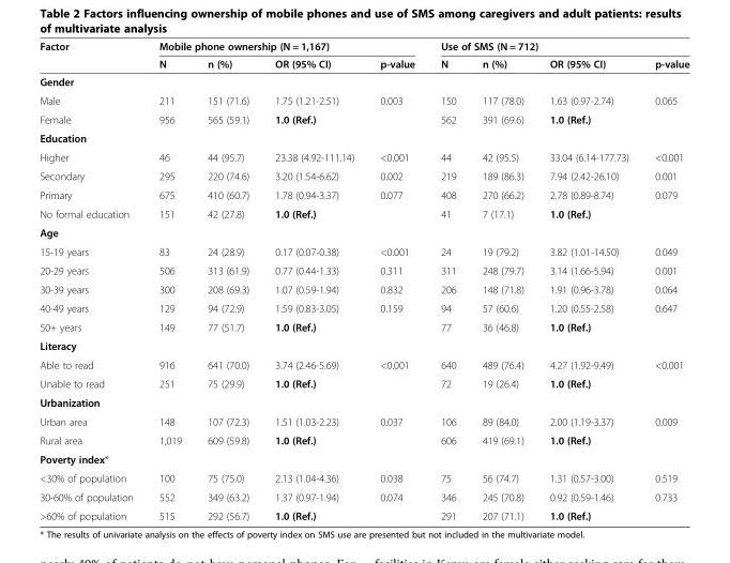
<table><thead><tr><td rowspan="2">Factor</td><td colspan="4">Mobile phone ownership (N = 1,167)</td><td colspan="4">Use of SMS (N = 712)</td></tr><tr><td>N</td><td>n (%)</td><td>OR (95% CI)</td><td>p-value</td><td>N</td><td>n (%)</td><td>OR (95% CI)</td><td>p-value</td></tr></thead><tbody><tr><td colspan="9">Gender</td></tr><tr><td>Male</td><td>211</td><td>151 (71.6)</td><td>1.75 (1.21-2.51)</td><td>0.003</td><td>150</td><td>117 (78.0)</td><td>1.63 (0.97-2.74)</td><td>0.065</td></tr><tr><td>Female</td><td>956</td><td>565 (59.1)</td><td>1.0 (Ref.)</td><td></td><td>562</td><td>391 (69.6)</td><td>1.0 (Ref.)</td><td></td></tr><tr><td colspan="9">Education</td></tr><tr><td>Higher</td><td>46</td><td>44 (95.7)</td><td>23.38 (4.92-111.14)</td><td>&lt;0.001</td><td>44</td><td>42 (95.5)</td><td>33.04 (6.14-177.73)</td><td>&lt;0.001</td></tr><tr><td>Secondary</td><td>295</td><td>220 (74.6)</td><td>3.20 (1.54-6.62)</td><td>0.002</td><td>219</td><td>189 (86.3)</td><td>7.94 (2.42-26.10)</td><td>0.001</td></tr><tr><td>Primary</td><td>675</td><td>410 (60.7)</td><td>1.78 (0.94-3.37)</td><td>0.077</td><td>408</td><td>270 (66.2)</td><td>2.78 (0.89-8.74)</td><td>0.079</td></tr><tr><td>No formal education</td><td>151</td><td>42 (27.8)</td><td>1.0 (Ref.)</td><td></td><td>41</td><td>7 (17.1)</td><td>1.0 (Ref.)</td><td></td></tr><tr><td colspan="9">Age</td></tr><tr><td>15-19 years</td><td>83</td><td>24 (28.9)</td><td>0.17 (0.07-0.38)</td><td>&lt;0.001</td><td>24</td><td>19 (79.2)</td><td>3.82 (1.01-14.50)</td><td>0.049</td></tr><tr><td>20-29 years</td><td>506</td><td>313 (61.9)</td><td>0.77 (0.44-1.33)</td><td>0.311</td><td>311</td><td>248 (79.7)</td><td>3.14 (1.66-5.94)</td><td>0.001</td></tr><tr><td>30-39 years</td><td>300</td><td>208 (69.3)</td><td>1.07 (0.59-1.94)</td><td>0.832</td><td>206</td><td>148 (71.8)</td><td>1.91 (0.96-3.78)</td><td>0.064</td></tr><tr><td>40-49 years</td><td>129</td><td>94 (72.9)</td><td>1.59 (0.83-3.05)</td><td>0.159</td><td>94</td><td>57 (60.6)</td><td>1.20 (0.55-2.58)</td><td>0.647</td></tr><tr><td>50+ years</td><td>149</td><td>77 (51.7)</td><td>1.0 (Ref.)</td><td></td><td>77</td><td>36 (46.8)</td><td>1.0 (Ref.)</td><td></td></tr><tr><td colspan="9">Literacy</td></tr><tr><td>Able to read</td><td>916</td><td>641 (70.0)</td><td>3.74 (2.46-5.69)</td><td>&lt;0.001</td><td>640</td><td>489 (76.4)</td><td>4.27 (1.92-9.49)</td><td>&lt;0.001</td></tr><tr><td>Unable to read</td><td>251</td><td>75 (29.9)</td><td>1.0 (Ref.)</td><td></td><td>72</td><td>19 (26.4)</td><td>1.0 (Ref.)</td><td></td></tr><tr><td colspan="9">Urbanization</td></tr><tr><td>Urban area</td><td>148</td><td>107 (72.3)</td><td>1.51 (1.03-2.23)</td><td>0.037</td><td>106</td><td>89 (84.0)</td><td>2.00 (1.19-3.37)</td><td>0.009</td></tr><tr><td>Rural area</td><td>1,019</td><td>609 (59.8)</td><td>1.0 (Ref.)</td><td></td><td>606</td><td>419 (69.1)</td><td>1.0 (Ref.)</td><td></td></tr><tr><td colspan="9">Poverty index*</td></tr><tr><td>&lt;30% of population</td><td>100</td><td>75 (75.0)</td><td>2.13 (1.04-4.36)</td><td>0.038</td><td>75</td><td>56 (74.7)</td><td>1.31 (0.57-3.00)</td><td>0.519</td></tr><tr><td>30-60% of population</td><td>552</td><td>349 (63.2)</td><td>1.37 (0.97-1.94)</td><td>0.074</td><td>346</td><td>245 (70.8)</td><td>0.92 (0.59-1.46)</td><td>0.733</td></tr><tr><td>&gt;60% of population</td><td>515</td><td>292 (56.7)</td><td>1.0 (Ref.)</td><td></td><td>291</td><td>207 (71.1)</td><td>1.0 (Ref.)</td><td></td></tr></tbody></table>